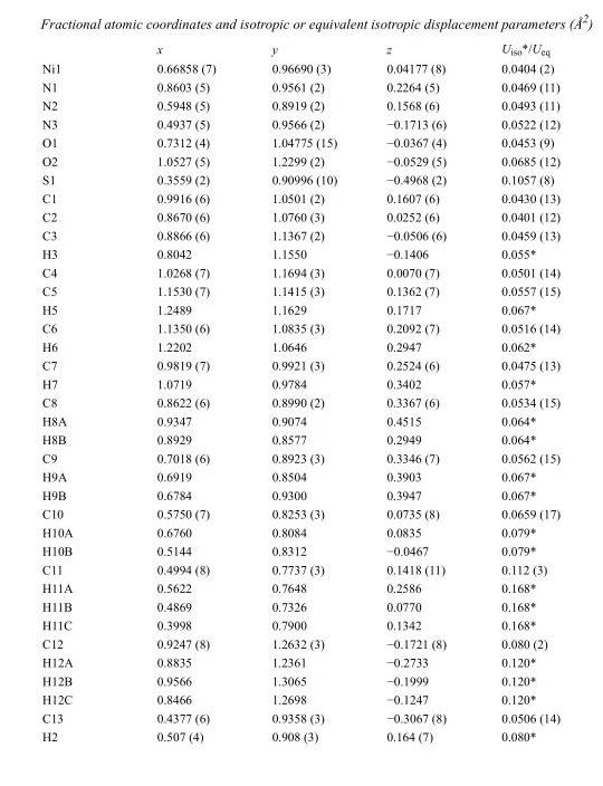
<table><thead><tr><td></td><td>x</td><td>y</td><td>z</td><td>U<sub>iso</sub>*/U<sub>eq</sub></td></tr></thead><tbody><tr><td>Ni1</td><td>0.66858 (7)</td><td>0.96690 (3)</td><td>0.04177 (8)</td><td>0.0404 (2)</td></tr><tr><td>N1</td><td>0.8603 (5)</td><td>0.9561 (2)</td><td>0.2264 (5)</td><td>0.0469 (11)</td></tr><tr><td>N2</td><td>0.5948 (5)</td><td>0.8919 (2)</td><td>0.1568 (6)</td><td>0.0493 (11)</td></tr><tr><td>N3</td><td>0.4937 (5)</td><td>0.9566 (2)</td><td>−0.1713 (6)</td><td>0.0522 (12)</td></tr><tr><td>O1</td><td>0.7312 (4)</td><td>1.04775 (15)</td><td>−0.0367 (4)</td><td>0.0453 (9)</td></tr><tr><td>O2</td><td>1.0527 (5)</td><td>1.2299 (2)</td><td>−0.0529 (5)</td><td>0.0685 (12)</td></tr><tr><td>S1</td><td>0.3559 (2)</td><td>0.90996 (10)</td><td>−0.4968 (2)</td><td>0.1057 (8)</td></tr><tr><td>C1</td><td>0.9916 (6)</td><td>1.0501 (2)</td><td>0.1607 (6)</td><td>0.0430 (13)</td></tr><tr><td>C2</td><td>0.8670 (6)</td><td>1.0760 (3)</td><td>0.0252 (6)</td><td>0.0401 (12)</td></tr><tr><td>C3</td><td>0.8866 (6)</td><td>1.1367 (2)</td><td>−0.0506 (6)</td><td>0.0459 (13)</td></tr><tr><td>H3</td><td>0.8042</td><td>1.1550</td><td>−0.1406</td><td>0.055*</td></tr><tr><td>C4</td><td>1.0268 (7)</td><td>1.1694 (3)</td><td>0.0070 (7)</td><td>0.0501 (14)</td></tr><tr><td>C5</td><td>1.1530 (7)</td><td>1.1415 (3)</td><td>0.1362 (7)</td><td>0.0557 (15)</td></tr><tr><td>H5</td><td>1.2489</td><td>1.1629</td><td>0.1717</td><td>0.067*</td></tr><tr><td>C6</td><td>1.1350 (6)</td><td>1.0835 (3)</td><td>0.2092 (7)</td><td>0.0516 (14)</td></tr><tr><td>H6</td><td>1.2202</td><td>1.0646</td><td>0.2947</td><td>0.062*</td></tr><tr><td>C7</td><td>0.9819 (7)</td><td>0.9921 (3)</td><td>0.2524 (6)</td><td>0.0475 (13)</td></tr><tr><td>H7</td><td>1.0719</td><td>0.9784</td><td>0.3402</td><td>0.057*</td></tr><tr><td>C8</td><td>0.8622 (6)</td><td>0.8990 (2)</td><td>0.3367 (6)</td><td>0.0534 (15)</td></tr><tr><td>H8A</td><td>0.9347</td><td>0.9074</td><td>0.4515</td><td>0.064*</td></tr><tr><td>H8B</td><td>0.8929</td><td>0.8577</td><td>0.2949</td><td>0.064*</td></tr><tr><td>C9</td><td>0.7018 (6)</td><td>0.8923 (3)</td><td>0.3346 (7)</td><td>0.0562 (15)</td></tr><tr><td>H9A</td><td>0.6919</td><td>0.8504</td><td>0.3903</td><td>0.067*</td></tr><tr><td>H9B</td><td>0.6784</td><td>0.9300</td><td>0.3947</td><td>0.067*</td></tr><tr><td>C10</td><td>0.5750 (7)</td><td>0.8253 (3)</td><td>0.0735 (8)</td><td>0.0659 (17)</td></tr><tr><td>H10A</td><td>0.6760</td><td>0.8084</td><td>0.0835</td><td>0.079*</td></tr><tr><td>H10B</td><td>0.5144</td><td>0.8312</td><td>−0.0467</td><td>0.079*</td></tr><tr><td>C11</td><td>0.4994 (8)</td><td>0.7737 (3)</td><td>0.1418 (11)</td><td>0.112 (3)</td></tr><tr><td>H11A</td><td>0.5622</td><td>0.7648</td><td>0.2586</td><td>0.168*</td></tr><tr><td>H11B</td><td>0.4869</td><td>0.7326</td><td>0.0770</td><td>0.168*</td></tr><tr><td>H11C</td><td>0.3998</td><td>0.7900</td><td>0.1342</td><td>0.168*</td></tr><tr><td>C12</td><td>0.9247 (8)</td><td>1.2632 (3)</td><td>−0.1721 (8)</td><td>0.080 (2)</td></tr><tr><td>H12A</td><td>0.8835</td><td>1.2361</td><td>−0.2733</td><td>0.120*</td></tr><tr><td>H12B</td><td>0.9566</td><td>1.3065</td><td>−0.1999</td><td>0.120*</td></tr><tr><td>H12C</td><td>0.8466</td><td>1.2698</td><td>−0.1247</td><td>0.120*</td></tr><tr><td>C13</td><td>0.4377 (6)</td><td>0.9358 (3)</td><td>−0.3067 (8)</td><td>0.0506 (14)</td></tr><tr><td>H2</td><td>0.507 (4)</td><td>0.908 (3)</td><td>0.164 (7)</td><td>0.080*</td></tr></tbody></table>